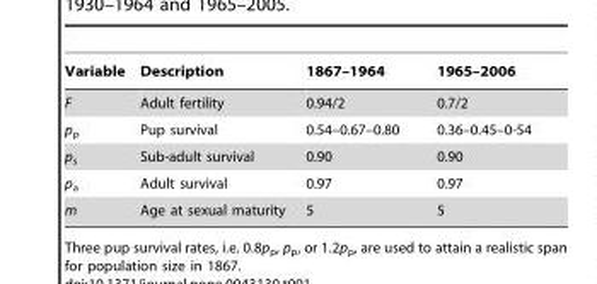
<table><thead><tr><td>Variable</td><td>Description</td><td>1867–1964</td><td>1965–2006</td></tr></thead><tbody><tr><td>F</td><td>Adult fertility</td><td>0.94/2</td><td>0.7/2</td></tr><tr><td>p<sub>p</sub></td><td>Pup survival</td><td>0.54–0.67–0.80</td><td>0.36–0.45–0-54</td></tr><tr><td>p<sub>s</sub></td><td>Sub-adult survival</td><td>0.90</td><td>0.90</td></tr><tr><td>p<sub>a</sub></td><td>Adult survival</td><td>0.97</td><td>0.97</td></tr><tr><td>m</td><td>Age at sexual maturity</td><td>5</td><td>5</td></tr></tbody></table>